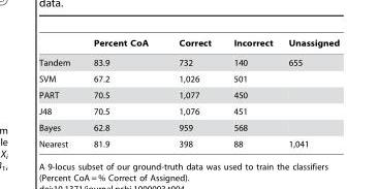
<table><thead><tr><td></td><td>Percent CoA</td><td>Correct</td><td>Incorrect</td><td>Unassigned</td></tr></thead><tbody><tr><td>Tandem</td><td>83.9</td><td>732</td><td>140</td><td>655</td></tr><tr><td>SVM</td><td>67.2</td><td>1,026</td><td>501</td><td></td></tr><tr><td>PART</td><td>70.5</td><td>1,077</td><td>450</td><td></td></tr><tr><td>J48</td><td>70.5</td><td>1,076</td><td>451</td><td></td></tr><tr><td>Bayes</td><td>62.8</td><td>959</td><td>568</td><td></td></tr><tr><td>Nearest</td><td>81.9</td><td>398</td><td>88</td><td>1,041</td></tr></tbody></table>